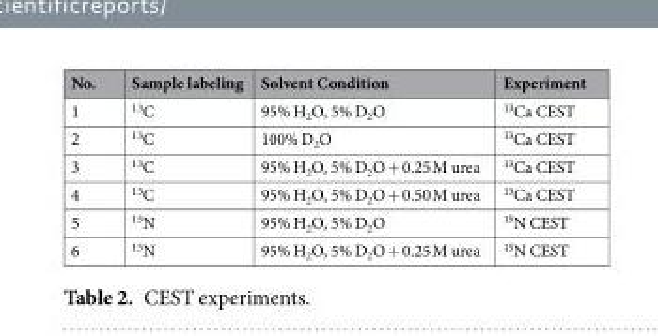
<table><thead><tr><td>No.</td><td>Sample labeling</td><td>Solvent Condition</td><td>Experiment</td></tr></thead><tbody><tr><td>1</td><td><sup>13</sup>C</td><td>95% H<sub>2</sub>O, 5% D<sub>2</sub>O</td><td><sup>13</sup>Ca CEST</td></tr><tr><td>2</td><td><sup>13</sup>C</td><td>100% D<sub>2</sub>O</td><td><sup>13</sup>Ca CEST</td></tr><tr><td>3</td><td><sup>13</sup>C</td><td>95% H<sub>2</sub>O, 5% D<sub>2</sub>O + 0.25 M urea</td><td><sup>13</sup>Ca CEST</td></tr><tr><td>4</td><td><sup>13</sup>C</td><td>95% H<sub>2</sub>O, 5% D<sub>2</sub>O + 0.50 M urea</td><td><sup>13</sup>Ca CEST</td></tr><tr><td>5</td><td><sup>15</sup>N</td><td>95% H<sub>2</sub>O, 5% D<sub>2</sub>O</td><td><sup>15</sup>N CEST</td></tr><tr><td>6</td><td><sup>15</sup>N</td><td>95% H<sub>2</sub>O, 5% D<sub>2</sub>O + 0.25 M urea</td><td><sup>15</sup>N CEST</td></tr></tbody></table>